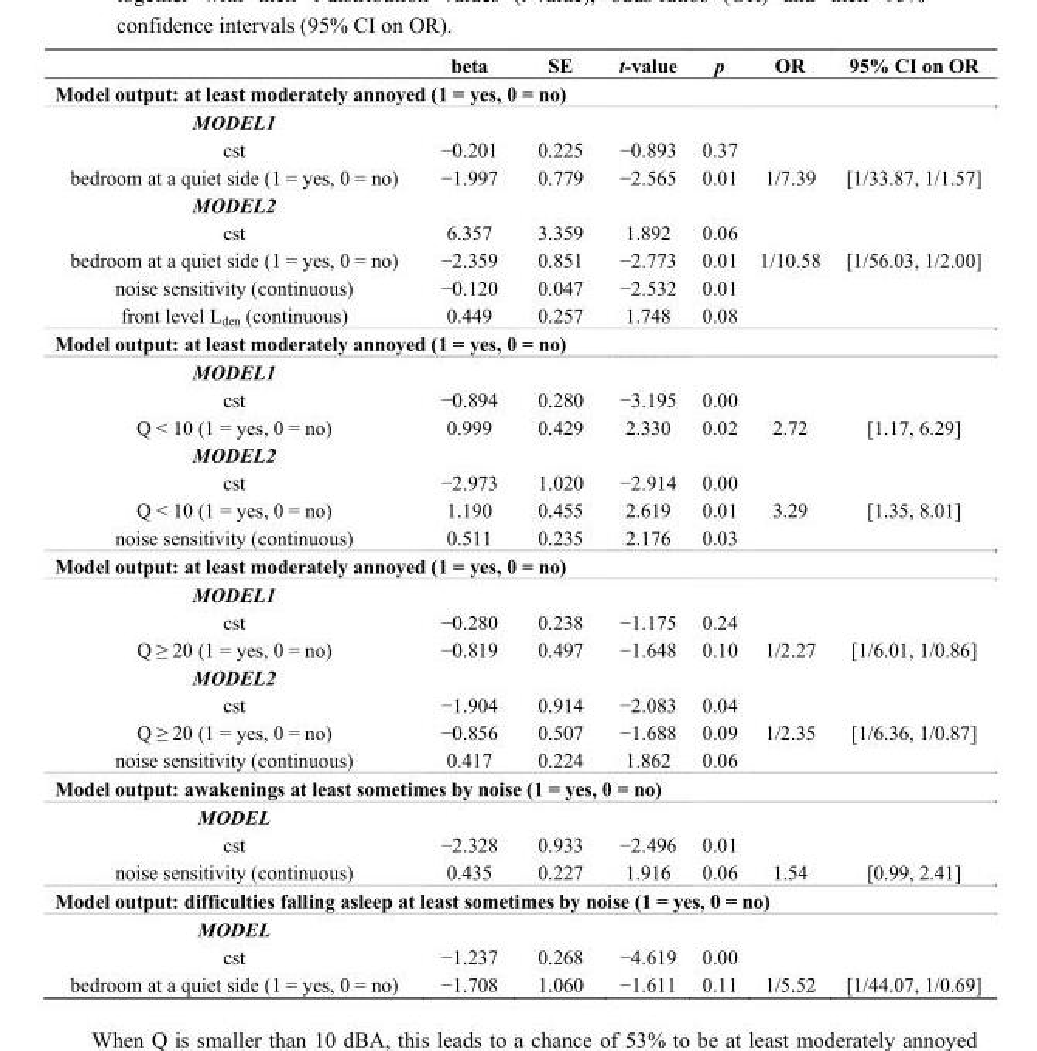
<table><thead><tr><td></td><td>beta</td><td>SE</td><td>t-value</td><td>p</td><td>OR</td><td>95% CI on OR</td></tr></thead><tbody><tr><td colspan="7">Model output: at least moderately annoyed (1 = yes, 0 = no)</td></tr><tr><td colspan="7">MODEL1</td></tr><tr><td>cst</td><td>−0.201</td><td>0.225</td><td>−0.893</td><td>0.37</td><td></td><td></td></tr><tr><td>bedroom at a quiet side (1 = yes, 0 = no)</td><td>−1.997</td><td>0.779</td><td>−2.565</td><td>0.01</td><td>1/7.39</td><td>[1/33.87, 1/1.57]</td></tr><tr><td colspan="7">MODEL2</td></tr><tr><td>cst</td><td>6.357</td><td>3.359</td><td>1.892</td><td>0.06</td><td></td><td></td></tr><tr><td>bedroom at a quiet side (1 = yes, 0 = no)</td><td>−2.359</td><td>0.851</td><td>−2.773</td><td>0.01</td><td>1/10.58</td><td>[1/56.03, 1/2.00]</td></tr><tr><td>noise sensitivity (continuous)</td><td>−0.120</td><td>0.047</td><td>−2.532</td><td>0.01</td><td></td><td></td></tr><tr><td>front level L<sub>den</sub> (continuous)</td><td>0.449</td><td>0.257</td><td>1.748</td><td>0.08</td><td></td><td></td></tr><tr><td colspan="7">Model output: at least moderately annoyed (1 = yes, 0 = no)</td></tr><tr><td colspan="7">MODEL1</td></tr><tr><td>cst</td><td>−0.894</td><td>0.280</td><td>−3.195</td><td>0.00</td><td></td><td></td></tr><tr><td>Q &lt; 10 (1 = yes, 0 = no)</td><td>0.999</td><td>0.429</td><td>2.330</td><td>0.02</td><td>2.72</td><td>[1.17, 6.29]</td></tr><tr><td colspan="7">MODEL2</td></tr><tr><td>cst</td><td>−2.973</td><td>1.020</td><td>−2.914</td><td>0.00</td><td></td><td></td></tr><tr><td>Q &lt; 10 (1 = yes, 0 = no)</td><td>1.190</td><td>0.455</td><td>2.619</td><td>0.01</td><td>3.29</td><td>[1.35, 8.01]</td></tr><tr><td>noise sensitivity (continuous)</td><td>0.511</td><td>0.235</td><td>2.176</td><td>0.03</td><td></td><td></td></tr><tr><td colspan="7">Model output: at least moderately annoyed (1 = yes, 0 = no)</td></tr><tr><td colspan="7">MODEL1</td></tr><tr><td>cst</td><td>−0.280</td><td>0.238</td><td>−1.175</td><td>0.24</td><td></td><td></td></tr><tr><td>Q ≥ 20 (1 = yes, 0 = no)</td><td>−0.819</td><td>0.497</td><td>−1.648</td><td>0.10</td><td>1/2.27</td><td>[1/6.01, 1/0.86]</td></tr><tr><td colspan="7">MODEL2</td></tr><tr><td>cst</td><td>−1.904</td><td>0.914</td><td>−2.083</td><td>0.04</td><td></td><td></td></tr><tr><td>Q ≥ 20 (1 = yes, 0 = no)</td><td>−0.856</td><td>0.507</td><td>−1.688</td><td>0.09</td><td>1/2.35</td><td>[1/6.36, 1/0.87]</td></tr><tr><td>noise sensitivity (continuous)</td><td>0.417</td><td>0.224</td><td>1.862</td><td>0.06</td><td></td><td></td></tr><tr><td colspan="7">Model output: awakenings at least sometimes by noise (1 = yes, 0 = no)</td></tr><tr><td colspan="7">MODEL</td></tr><tr><td>cst</td><td>−2.328</td><td>0.933</td><td>−2.496</td><td>0.01</td><td></td><td></td></tr><tr><td>noise sensitivity (continuous)</td><td>0.435</td><td>0.227</td><td>1.916</td><td>0.06</td><td>1.54</td><td>[0.99, 2.41]</td></tr><tr><td colspan="7">Model output: difficulties falling asleep at least sometimes by noise (1 = yes, 0 = no)</td></tr><tr><td colspan="7">MODEL</td></tr><tr><td>cst</td><td>−1.237</td><td>0.268</td><td>−4.619</td><td>0.00</td><td></td><td></td></tr><tr><td>bedroom at a quiet side (1 = yes, 0 = no)</td><td>−1.708</td><td>1.060</td><td>−1.611</td><td>0.11</td><td>1/5.52</td><td>[1/44.07, 1/0.69]</td></tr></tbody></table>